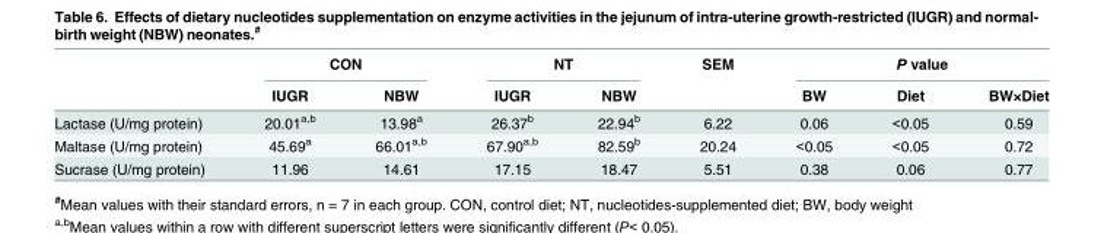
<table><thead><tr><td rowspan="2"></td><td colspan="2">CON</td><td colspan="2">NT</td><td rowspan="2">SEM</td><td colspan="3">P value</td></tr><tr><td>IUGR</td><td>NBW</td><td>IUGR</td><td>NBW</td><td>BW</td><td>Diet</td><td>BW×Diet</td></tr></thead><tbody><tr><td>Lactase (U/mg protein)</td><td>20.01<sup>a,b</sup></td><td>13.98<sup>a</sup></td><td>26.37<sup>b</sup></td><td>22.94<sup>b</sup></td><td>6.22</td><td>0.06</td><td>&lt;0.05</td><td>0.59</td></tr><tr><td>Maltase (U/mg protein)</td><td>45.69<sup>a</sup></td><td>66.01<sup>a,b</sup></td><td>67.90<sup>a,b</sup></td><td>82.59<sup>b</sup></td><td>20.24</td><td>&lt;0.05</td><td>&lt;0.05</td><td>0.72</td></tr><tr><td>Sucrase (U/mg protein)</td><td>11.96</td><td>14.61</td><td>17.15</td><td>18.47</td><td>5.51</td><td>0.38</td><td>0.06</td><td>0.77</td></tr></tbody></table>